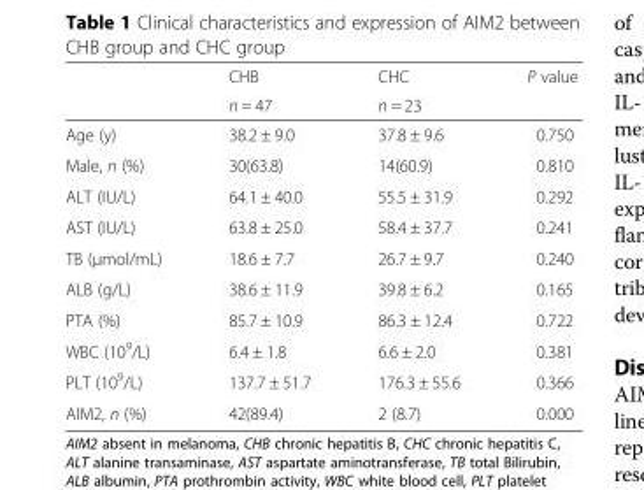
<table><thead><tr><td rowspan="2"></td><td rowspan="2">CHB n = 47</td><td rowspan="2">CHC n = 23</td><td rowspan="2">P value</td></tr><tr></tr></thead><tbody><tr><td>Age (y)</td><td>38.2 ± 9.0</td><td>37.8 ± 9.6</td><td>0.750</td></tr><tr><td>Male, n (%)</td><td>30(63.8)</td><td>14(60.9)</td><td>0.810</td></tr><tr><td>ALT (IU/L)</td><td>64.1 ± 40.0</td><td>55.5 ± 31.9</td><td>0.292</td></tr><tr><td>AST (IU/L)</td><td>63.8 ± 25.0</td><td>58.4 ± 37.7</td><td>0.241</td></tr><tr><td>TB (μmol/mL)</td><td>18.6 ± 7.7</td><td>26.7 ± 9.7</td><td>0.240</td></tr><tr><td>ALB (g/L)</td><td>38.6 ± 11.9</td><td>39.8 ± 6.2</td><td>0.165</td></tr><tr><td>PTA (%)</td><td>85.7 ± 10.9</td><td>86.3 ± 12.4</td><td>0.722</td></tr><tr><td>WBC (10<sup>9</sup>/L)</td><td>6.4 ± 1.8</td><td>6.6 ± 2.0</td><td>0.381</td></tr><tr><td>PLT (10<sup>9</sup>/L)</td><td>137.7 ± 51.7</td><td>176.3 ± 55.6</td><td>0.366</td></tr><tr><td>AIM2, n (%)</td><td>42(89.4)</td><td>2 (8.7)</td><td>0.000</td></tr></tbody></table>